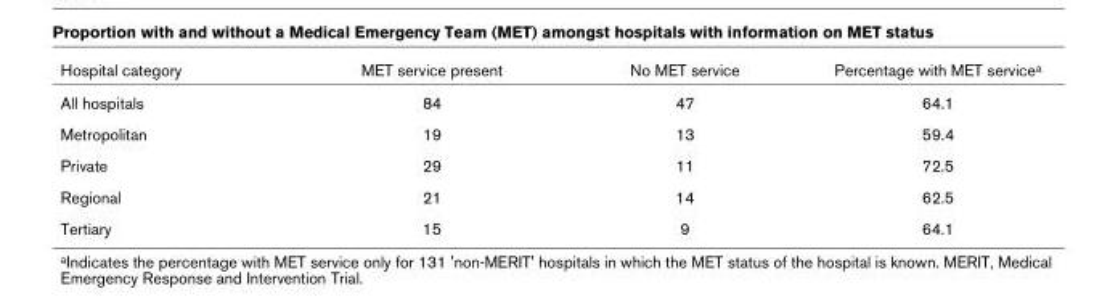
<table><thead><tr><td>Hospital category</td><td>MET service present</td><td>No MET service</td><td>Percentage with MET service<sup>a</sup></td></tr></thead><tbody><tr><td>All hospitals</td><td>84</td><td>47</td><td>64.1</td></tr><tr><td>Metropolitan</td><td>19</td><td>13</td><td>59.4</td></tr><tr><td>Private</td><td>29</td><td>11</td><td>72.5</td></tr><tr><td>Regional</td><td>21</td><td>14</td><td>62.5</td></tr><tr><td>Tertiary</td><td>15</td><td>9</td><td>64.1</td></tr></tbody></table>